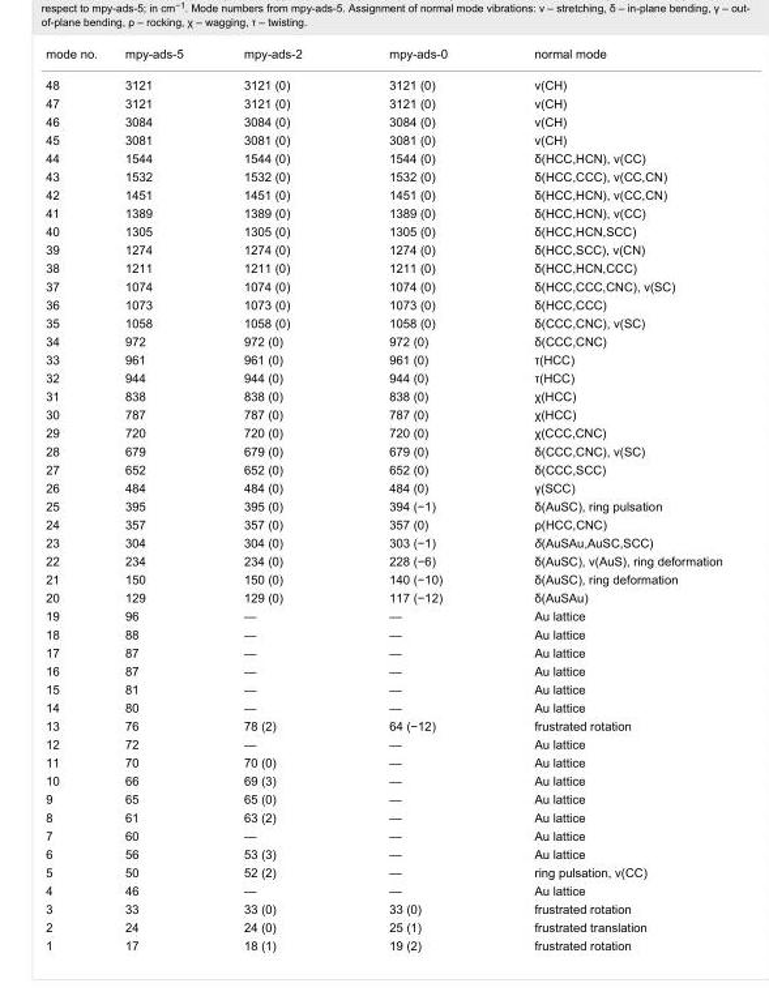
<table><tbody><tr><td>mode no.</td><td>mpy-ads-5</td><td>mpy-ads-2</td><td>mpy-ads-0</td><td>normal mode</td></tr><tr><td>48</td><td>3121</td><td>3121 (0)</td><td>3121 (0)</td><td>ν(CH)</td></tr><tr><td>47</td><td>3121</td><td>3121 (0)</td><td>3121 (0)</td><td>ν(CH)</td></tr><tr><td>46</td><td>3084</td><td>3084 (0)</td><td>3084 (0)</td><td>ν(CH)</td></tr><tr><td>45</td><td>3081</td><td>3081 (0)</td><td>3081 (0)</td><td>ν(CH)</td></tr><tr><td>44</td><td>1544</td><td>1544 (0)</td><td>1544 (0)</td><td>δ(HCC,HCN), ν(CC)</td></tr><tr><td>43</td><td>1532</td><td>1532 (0)</td><td>1532 (0)</td><td>δ(HCC,CCC), ν(CC,CN)</td></tr><tr><td>42</td><td>1451</td><td>1451 (0)</td><td>1451 (0)</td><td>δ(HCC,HCN), ν(CC,CN)</td></tr><tr><td>41</td><td>1389</td><td>1389 (0)</td><td>1389 (0)</td><td>δ(HCC,HCN), ν(CC)</td></tr><tr><td>40</td><td>1305</td><td>1305 (0)</td><td>1305 (0)</td><td>δ(HCC,HCN,SCC)</td></tr><tr><td>39</td><td>1274</td><td>1274 (0)</td><td>1274 (0)</td><td>δ(HCC,SCC), ν(CN)</td></tr><tr><td>38</td><td>1211</td><td>1211 (0)</td><td>1211 (0)</td><td>δ(HCC,HCN,CCC)</td></tr><tr><td>37</td><td>1074</td><td>1074 (0)</td><td>1074 (0)</td><td>δ(HCC,CCC,CNC), ν(SC)</td></tr><tr><td>36</td><td>1073</td><td>1073 (0)</td><td>1073 (0)</td><td>δ(HCC,CCC)</td></tr><tr><td>35</td><td>1058</td><td>1058 (0)</td><td>1058 (0)</td><td>δ(CCC,CNC), ν(SC)</td></tr><tr><td>34</td><td>972</td><td>972 (0)</td><td>972 (0)</td><td>δ(CCC,CNC)</td></tr><tr><td>33</td><td>961</td><td>961 (0)</td><td>961 (0)</td><td>τ(HCC)</td></tr><tr><td>32</td><td>944</td><td>944 (0)</td><td>944 (0)</td><td>τ(HCC)</td></tr><tr><td>31</td><td>838</td><td>838 (0)</td><td>838 (0)</td><td>χ(HCC)</td></tr><tr><td>30</td><td>787</td><td>787 (0)</td><td>787 (0)</td><td>χ(HCC)</td></tr><tr><td>29</td><td>720</td><td>720 (0)</td><td>720 (0)</td><td>χ(CCC,CNC)</td></tr><tr><td>28</td><td>679</td><td>679 (0)</td><td>679 (0)</td><td>δ(CCC,CNC), ν(SC)</td></tr><tr><td>27</td><td>652</td><td>652 (0)</td><td>652 (0)</td><td>δ(CCC,SCC)</td></tr><tr><td>26</td><td>484</td><td>484 (0)</td><td>484 (0)</td><td>γ(SCC)</td></tr><tr><td>25</td><td>395</td><td>395 (0)</td><td>394 (−1)</td><td>δ(AuSC), ring pulsation</td></tr><tr><td>24</td><td>357</td><td>357 (0)</td><td>357 (0)</td><td>ρ(HCC,CNC)</td></tr><tr><td>23</td><td>304</td><td>304 (0)</td><td>303 (−1)</td><td>δ(AuSAu,AuSC,SCC)</td></tr><tr><td>22</td><td>234</td><td>234 (0)</td><td>228 (−6)</td><td>δ(AuSC), ν(AuS), ring deformation</td></tr><tr><td>21</td><td>150</td><td>150 (0)</td><td>140 (−10)</td><td>δ(AuSC), ring deformation</td></tr><tr><td>20</td><td>129</td><td>129 (0)</td><td>117 (−12)</td><td>δ(AuSAu)</td></tr><tr><td>19</td><td>96</td><td>—</td><td>—</td><td>Au lattice</td></tr><tr><td>18</td><td>88</td><td>—</td><td>—</td><td>Au lattice</td></tr><tr><td>17</td><td>87</td><td>—</td><td>—</td><td>Au lattice</td></tr><tr><td>16</td><td>87</td><td>—</td><td>—</td><td>Au lattice</td></tr><tr><td>15</td><td>81</td><td>—</td><td>—</td><td>Au lattice</td></tr><tr><td>14</td><td>80</td><td>—</td><td>—</td><td>Au lattice</td></tr><tr><td>13</td><td>76</td><td>78 (2)</td><td>64 (−12)</td><td>frustrated rotation</td></tr><tr><td>12</td><td>72</td><td>—</td><td>—</td><td>Au lattice</td></tr><tr><td>11</td><td>70</td><td>70 (0)</td><td>—</td><td>Au lattice</td></tr><tr><td>10</td><td>66</td><td>69 (3)</td><td>—</td><td>Au lattice</td></tr><tr><td>9</td><td>65</td><td>65 (0)</td><td>—</td><td>Au lattice</td></tr><tr><td>8</td><td>61</td><td>63 (2)</td><td>—</td><td>Au lattice</td></tr><tr><td>7</td><td>60</td><td>—</td><td>—</td><td>Au lattice</td></tr><tr><td>6</td><td>56</td><td>53 (3)</td><td>—</td><td>Au lattice</td></tr><tr><td>5</td><td>50</td><td>52 (2)</td><td>—</td><td>ring pulsation, ν(CC)</td></tr><tr><td>4</td><td>46</td><td>—</td><td>—</td><td>Au lattice</td></tr><tr><td>3</td><td>33</td><td>33 (0)</td><td>33 (0)</td><td>frustrated rotation</td></tr><tr><td>2</td><td>24</td><td>24 (0)</td><td>25 (1)</td><td>frustrated translation</td></tr><tr><td>1</td><td>17</td><td>18 (1)</td><td>19 (2)</td><td>frustrated rotation</td></tr></tbody></table>